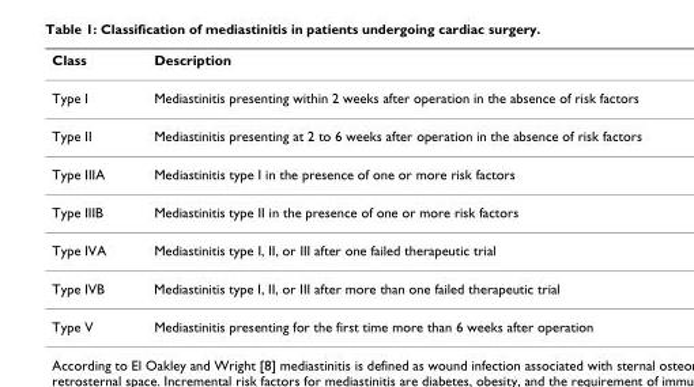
<table><thead><tr><td>Class</td><td>Description</td></tr></thead><tbody><tr><td>Type I</td><td>Mediastinitis presenting within 2 weeks after operation in the absence of risk factors</td></tr><tr><td>Type II</td><td>Mediastinitis presenting at 2 to 6 weeks after operation in the absence of risk factors</td></tr><tr><td>Type IIIA</td><td>Mediastinitis type I in the presence of one or more risk factors</td></tr><tr><td>Type IIIB</td><td>Mediastinitis type II in the presence of one or more risk factors</td></tr><tr><td>Type IVA</td><td>Mediastinitis type I, II, or III after one failed therapeutic trial</td></tr><tr><td>Type IVB</td><td>Mediastinitis type I, II, or III after more than one failed therapeutic trial</td></tr><tr><td>Type V</td><td>Mediastinitis presenting for the first time more than 6 weeks after operation</td></tr></tbody></table>